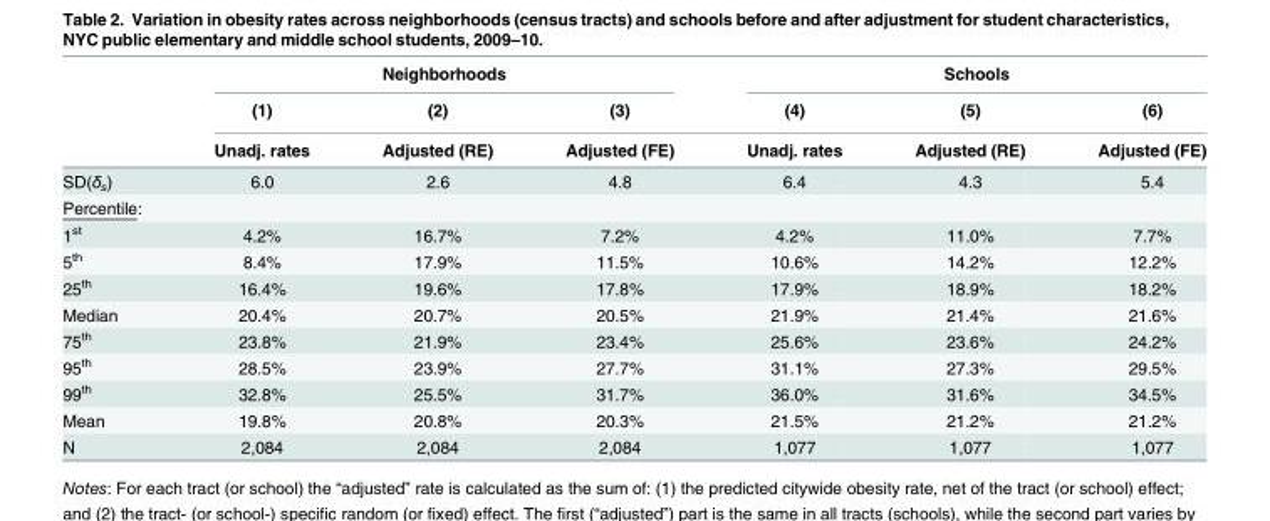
<table><thead><tr><td rowspan="3"></td><td colspan="3">Neighborhoods</td><td colspan="3">Schools</td></tr><tr><td rowspan="2">(1) Unadj. rates</td><td rowspan="2">(2) Adjusted (RE)</td><td rowspan="2">(3) Adjusted (FE)</td><td rowspan="2">(4) Unadj. rates</td><td rowspan="2">(5) Adjusted (RE)</td><td rowspan="2">(6) Adjusted (FE)</td></tr><tr></tr></thead><tbody><tr><td>SD(δ<sub>s</sub>)</td><td>6.0</td><td>2.6</td><td>4.8</td><td>6.4</td><td>4.3</td><td>5.4</td></tr><tr><td colspan="7">Percentile:</td></tr><tr><td>1<sup>st</sup></td><td>4.2%</td><td>16.7%</td><td>7.2%</td><td>4.2%</td><td>11.0%</td><td>7.7%</td></tr><tr><td>5<sup>th</sup></td><td>8.4%</td><td>17.9%</td><td>11.5%</td><td>10.6%</td><td>14.2%</td><td>12.2%</td></tr><tr><td>25<sup>th</sup></td><td>16.4%</td><td>19.6%</td><td>17.8%</td><td>17.9%</td><td>18.9%</td><td>18.2%</td></tr><tr><td>Median</td><td>20.4%</td><td>20.7%</td><td>20.5%</td><td>21.9%</td><td>21.4%</td><td>21.6%</td></tr><tr><td>75<sup>th</sup></td><td>23.8%</td><td>21.9%</td><td>23.4%</td><td>25.6%</td><td>23.6%</td><td>24.2%</td></tr><tr><td>95<sup>th</sup></td><td>28.5%</td><td>23.9%</td><td>27.7%</td><td>31.1%</td><td>27.3%</td><td>29.5%</td></tr><tr><td>99<sup>th</sup></td><td>32.8%</td><td>25.5%</td><td>31.7%</td><td>36.0%</td><td>31.6%</td><td>34.5%</td></tr><tr><td>Mean</td><td>19.8%</td><td>20.8%</td><td>20.3%</td><td>21.5%</td><td>21.2%</td><td>21.2%</td></tr><tr><td>N</td><td>2,084</td><td>2,084</td><td>2,084</td><td>1,077</td><td>1,077</td><td>1,077</td></tr></tbody></table>